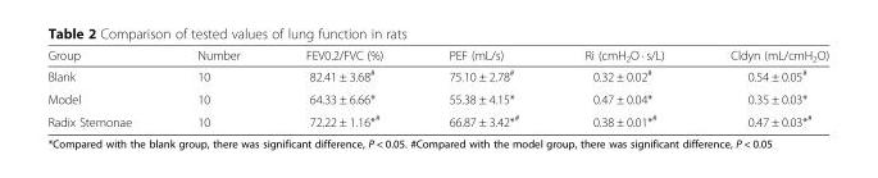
<table><thead><tr><td>Group</td><td>Number</td><td>FEV0.2/FVC (%)</td><td>PEF (mL/s)</td><td>Ri (cmH<sub>2</sub>O · s/L)</td><td>Cldyn (mL/cmH<sub>2</sub>O)</td></tr></thead><tbody><tr><td>Blank</td><td>10</td><td>82.41 ± 3.68<sup>#</sup></td><td>75.10 ± 2.78<sup>#</sup></td><td>0.32 ± 0.02<sup>#</sup></td><td>0.54 ± 0.05<sup>#</sup></td></tr><tr><td>Model</td><td>10</td><td>64.33 ± 6.66*</td><td>55.38 ± 4.15*</td><td>0.47 ± 0.04*</td><td>0.35 ± 0.03*</td></tr><tr><td>Radix Stemonae</td><td>10</td><td>72.22 ± 1.16*<sup>#</sup></td><td>66.87 ± 3.42*<sup>#</sup></td><td>0.38 ± 0.01*<sup>#</sup></td><td>0.47 ± 0.03*<sup>#</sup></td></tr></tbody></table>